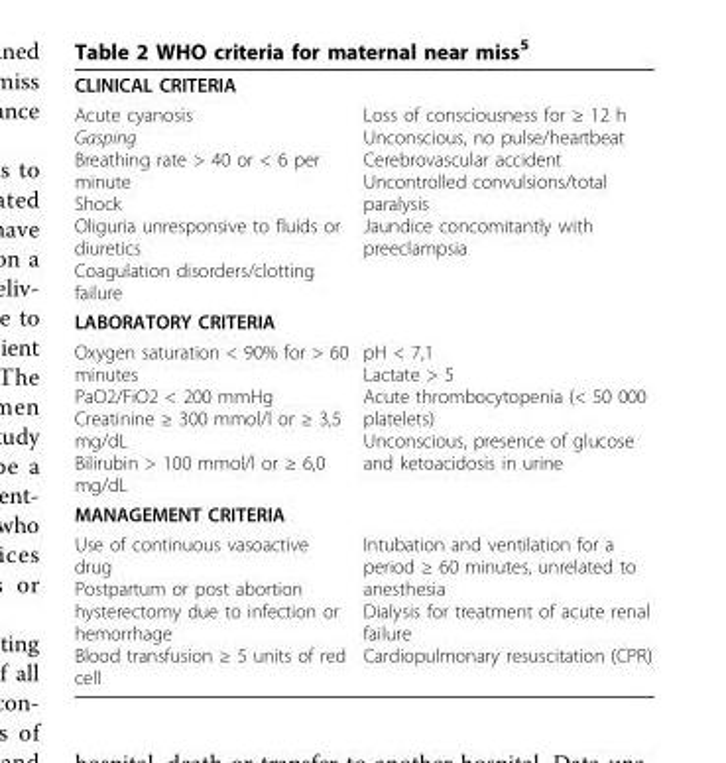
<table><tbody><tr><td colspan="2">CLINICAL CRITERIA</td></tr><tr><td>Acute cyanosis Gasping Breathing rate &gt; 40 or &lt; 6 per minute Shock Oliguria unresponsive to fluids or diuretics Coagulation disorders/clotting failure</td><td>Loss of consciousness for ≥ 12 h Unconscious, no pulse/heartbeat Cerebrovascular accident Uncontrolled convulsions/total paralysis Jaundice concomitantly with preeclampsia</td></tr><tr><td colspan="2">LABORATORY CRITERIA</td></tr><tr><td>Oxygen saturation &lt; 90% for &gt; 60 minutes PaO2/FiO2 &lt; 200 mmHg Creatinine ≥ 300 mmol/l or ≥ 3,5 mg/dL Bilirubin &gt; 100 mmol/l or ≥ 6,0 mg/dL</td><td>pH &lt; 7,1 Lactate &gt; 5 Acute thrombocytopenia (&lt; 50 000 platelets) Unconscious, presence of glucose and ketoacidosis in urine</td></tr><tr><td colspan="2">MANAGEMENT CRITERIA</td></tr><tr><td>Use of continuous vasoactive drug Postpartum or post abortion hysterectomy due to infection or hemorrhage Blood transfusion ≥ 5 units of red cell</td><td>Intubation and ventilation for a period ≥ 60 minutes, unrelated to anesthesia Dialysis for treatment of acute renal failure Cardiopulmonary resuscitation (CPR)</td></tr></tbody></table>